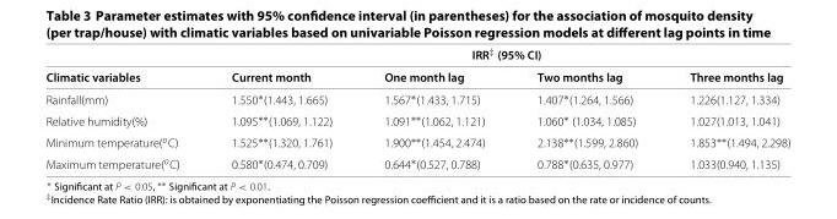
<table><thead><tr><td rowspan="2">Climatic variables</td><td colspan="4">IRR<sup>‡</sup> (95% CI)</td></tr><tr><td>Current month</td><td>One month lag</td><td>Two months lag</td><td>Three months lag</td></tr></thead><tbody><tr><td>Rainfall(mm)</td><td>1.550∗(1.443, 1.665)</td><td>1.567∗(1.433, 1.715)</td><td>1.407∗(1.264, 1.566)</td><td>1.226(1.127, 1.334)</td></tr><tr><td>Relative humidity(%)</td><td>1.095∗∗(1.069, 1.122)</td><td>1.091∗∗(1.062, 1.121)</td><td>1.060∗ (1.034, 1.085)</td><td>1.027(1.013, 1.041)</td></tr><tr><td>Minimum temperature(<sup>o</sup>C)</td><td>1.525∗∗(1.320, 1.761)</td><td>1.900∗∗(1.454, 2.474)</td><td>2.138∗∗(1.599, 2.860)</td><td>1.853∗∗(1.494, 2.298)</td></tr><tr><td>Maximum temperature(<sup>o</sup>C)</td><td>0.580∗(0.474, 0.709)</td><td>0.644∗(0.527, 0.788)</td><td>0.788∗(0.635, 0.977)</td><td>1.033(0.940, 1.135)</td></tr></tbody></table>